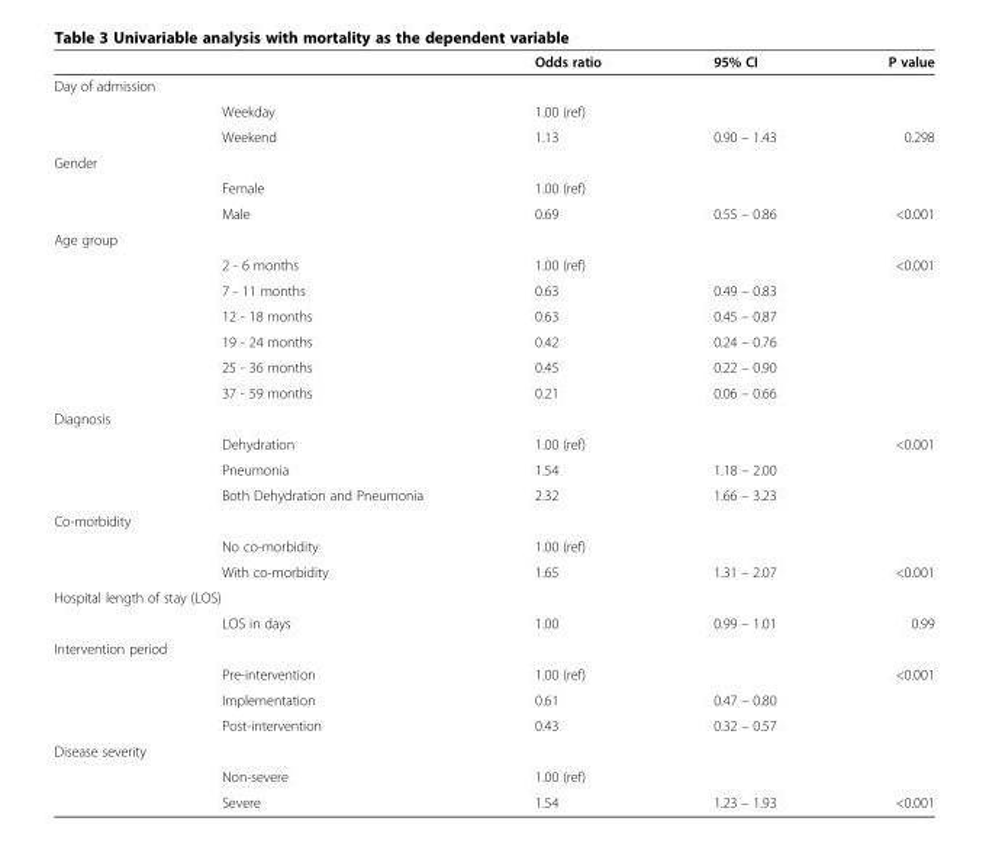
<table><thead><tr><td></td><td></td><td>Odds ratio</td><td>95% CI</td><td>P value</td></tr></thead><tbody><tr><td colspan="5">Day of admission</td></tr><tr><td></td><td>Weekday</td><td>1.00 (ref)</td><td></td><td></td></tr><tr><td></td><td>Weekend</td><td>1.13</td><td>0.90 – 1.43</td><td>0.298</td></tr><tr><td colspan="5">Gender</td></tr><tr><td></td><td>Female</td><td>1.00 (ref)</td><td></td><td></td></tr><tr><td></td><td>Male</td><td>0.69</td><td>0.55 – 0.86</td><td>&lt;0.001</td></tr><tr><td colspan="5">Age group</td></tr><tr><td></td><td>2 - 6 months</td><td>1.00 (ref)</td><td></td><td>&lt;0.001</td></tr><tr><td></td><td>7 - 11 months</td><td>0.63</td><td>0.49 – 0.83</td><td></td></tr><tr><td></td><td>12 - 18 months</td><td>0.63</td><td>0.45 – 0.87</td><td></td></tr><tr><td></td><td>19 - 24 months</td><td>0.42</td><td>0.24 – 0.76</td><td></td></tr><tr><td></td><td>25 - 36 months</td><td>0.45</td><td>0.22 – 0.90</td><td></td></tr><tr><td></td><td>37 - 59 months</td><td>0.21</td><td>0.06 – 0.66</td><td></td></tr><tr><td colspan="5">Diagnosis</td></tr><tr><td></td><td>Dehydration</td><td>1.00 (ref)</td><td></td><td>&lt;0.001</td></tr><tr><td></td><td>Pneumonia</td><td>1.54</td><td>1.18 – 2.00</td><td></td></tr><tr><td></td><td>Both Dehydration and Pneumonia</td><td>2.32</td><td>1.66 – 3.23</td><td></td></tr><tr><td colspan="5">Co-morbidity</td></tr><tr><td></td><td>No co-morbidity</td><td>1.00 (ref)</td><td></td><td></td></tr><tr><td></td><td>With co-morbidity</td><td>1.65</td><td>1.31 – 2.07</td><td>&lt;0.001</td></tr><tr><td colspan="5">Hospital length of stay (LOS)</td></tr><tr><td></td><td>LOS in days</td><td>1.00</td><td>0.99 – 1.01</td><td>0.99</td></tr><tr><td colspan="5">Intervention period</td></tr><tr><td></td><td>Pre-intervention</td><td>1.00 (ref)</td><td></td><td>&lt;0.001</td></tr><tr><td></td><td>Implementation</td><td>0.61</td><td>0.47 – 0.80</td><td></td></tr><tr><td></td><td>Post-intervention</td><td>0.43</td><td>0.32 – 0.57</td><td></td></tr><tr><td colspan="5">Disease severity</td></tr><tr><td></td><td>Non-severe</td><td>1.00 (ref)</td><td></td><td></td></tr><tr><td></td><td>Severe</td><td>1.54</td><td>1.23 – 1.93</td><td>&lt;0.001</td></tr></tbody></table>